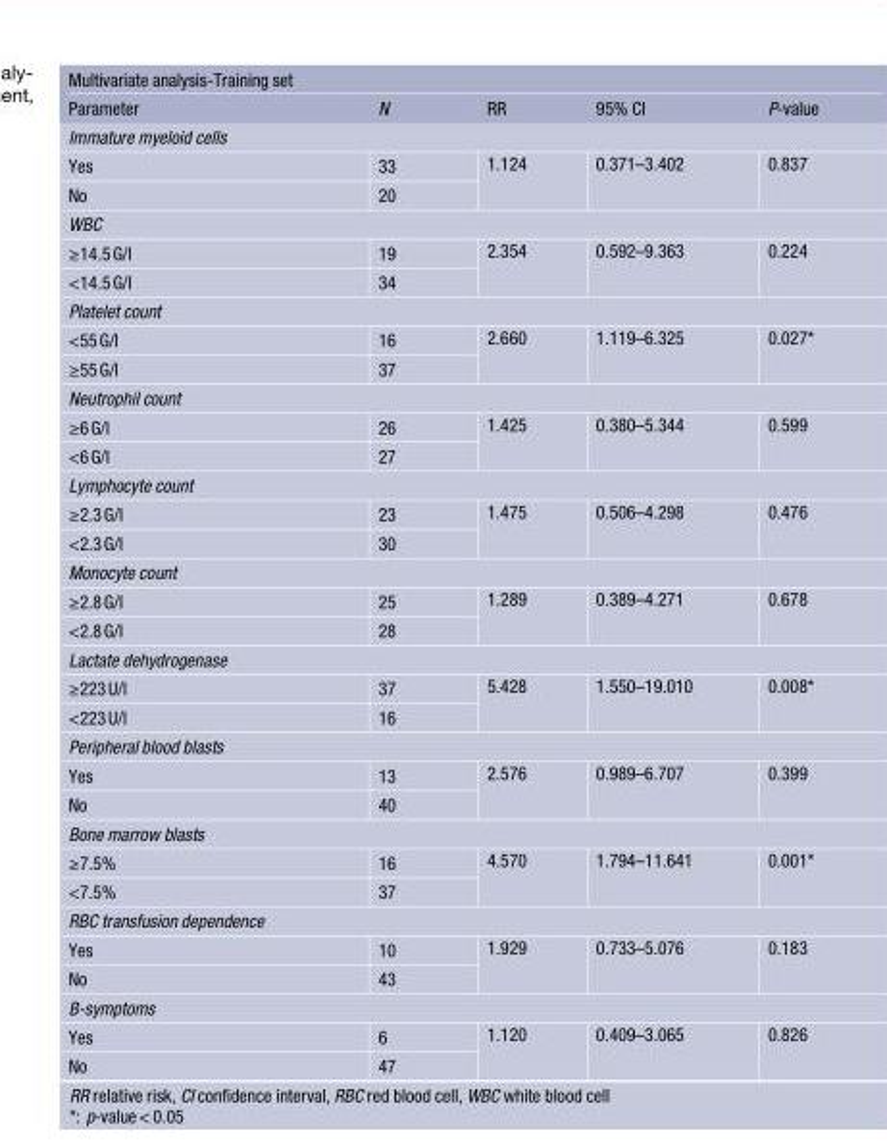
<table><thead><tr><td colspan="5">Multivariate analysis-Training set</td></tr><tr><td>Parameter</td><td>N</td><td>RR</td><td>95% CI</td><td>P-value</td></tr></thead><tbody><tr><td colspan="5">Immature myeloid cells</td></tr><tr><td>Yes</td><td>33</td><td rowspan="2">1.124</td><td rowspan="2">0.371–3.402</td><td rowspan="2">0.837</td></tr><tr><td>No</td><td>20</td></tr><tr><td colspan="5">WBC</td></tr><tr><td>≥14.5G/l</td><td>19</td><td rowspan="2">2.354</td><td rowspan="2">0.592–9.363</td><td rowspan="2">0.224</td></tr><tr><td>&lt;14.5G/l</td><td>34</td></tr><tr><td colspan="5">Platelet count</td></tr><tr><td>&lt;55G/l</td><td>16</td><td rowspan="2">2.660</td><td rowspan="2">1.119–6.325</td><td rowspan="2">0.027*</td></tr><tr><td>≥55G/l</td><td>37</td></tr><tr><td colspan="5">Neutrophil count</td></tr><tr><td>≥6G/l</td><td>26</td><td rowspan="2">1.425</td><td rowspan="2">0.380–5.344</td><td rowspan="2">0.599</td></tr><tr><td>&lt;6G/l</td><td>27</td></tr><tr><td colspan="5">Lymphocyte count</td></tr><tr><td>≥2.3G/l</td><td>23</td><td rowspan="2">1.475</td><td rowspan="2">0.506–4.298</td><td rowspan="2">0.476</td></tr><tr><td>&lt;2.3G/l</td><td>30</td></tr><tr><td colspan="5">Monocyte count</td></tr><tr><td>≥2.8G/l</td><td>25</td><td rowspan="2">1.289</td><td rowspan="2">0.389–4.271</td><td rowspan="2">0.678</td></tr><tr><td>&lt;2.8G/l</td><td>28</td></tr><tr><td colspan="5">Lactate dehydrogenase</td></tr><tr><td>≥223U/l</td><td>37</td><td rowspan="2">5.428</td><td rowspan="2">1.550–19.010</td><td rowspan="2">0.008*</td></tr><tr><td>&lt;223U/l</td><td>16</td></tr><tr><td colspan="5">Peripheral blood blasts</td></tr><tr><td>Yes</td><td>13</td><td rowspan="2">2.576</td><td rowspan="2">0.989–6.707</td><td rowspan="2">0.399</td></tr><tr><td>No</td><td>40</td></tr><tr><td colspan="5">Bone marrow blasts</td></tr><tr><td>≥7.5%</td><td>16</td><td rowspan="2">4.570</td><td rowspan="2">1.794–11.641</td><td rowspan="2">0.001*</td></tr><tr><td>&lt;7.5%</td><td>37</td></tr><tr><td colspan="5">RBC transfusion dependence</td></tr><tr><td>Yes</td><td>10</td><td rowspan="2">1.929</td><td rowspan="2">0.733–5.076</td><td rowspan="2">0.183</td></tr><tr><td>No</td><td>43</td></tr><tr><td colspan="5">B-symptoms</td></tr><tr><td>Yes</td><td>6</td><td rowspan="2">1.120</td><td rowspan="2">0.409–3.065</td><td rowspan="2">0.826</td></tr><tr><td>No</td><td>47</td></tr></tbody></table>